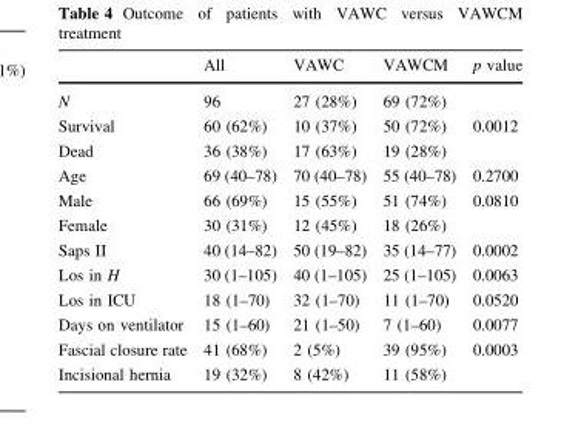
<table><thead><tr><td></td><td>All</td><td>VAWC</td><td>VAWCM</td><td>p value</td></tr></thead><tbody><tr><td>N</td><td>96</td><td>27 (28%)</td><td>69 (72%)</td><td></td></tr><tr><td>Survival</td><td>60 (62%)</td><td>10 (37%)</td><td>50 (72%)</td><td>0.0012</td></tr><tr><td>Dead</td><td>36 (38%)</td><td>17 (63%)</td><td>19 (28%)</td><td></td></tr><tr><td>Age</td><td>69 (40–78)</td><td>70 (40–78)</td><td>55 (40–78)</td><td>0.2700</td></tr><tr><td>Male</td><td>66 (69%)</td><td>15 (55%)</td><td>51 (74%)</td><td>0.0810</td></tr><tr><td>Female</td><td>30 (31%)</td><td>12 (45%)</td><td>18 (26%)</td><td></td></tr><tr><td>Saps II</td><td>40 (14–82)</td><td>50 (19–82)</td><td>35 (14–77)</td><td>0.0002</td></tr><tr><td>Los in H</td><td>30 (1–105)</td><td>40 (1–105)</td><td>25 (1–105)</td><td>0.0063</td></tr><tr><td>Los in ICU</td><td>18 (1–70)</td><td>32 (1–70)</td><td>11 (1–70)</td><td>0.0520</td></tr><tr><td>Days on ventilator</td><td>15 (1–60)</td><td>21 (1–50)</td><td>7 (1–60)</td><td>0.0077</td></tr><tr><td>Fascial closure rate</td><td>41 (68%)</td><td>2 (5%)</td><td>39 (95%)</td><td>0.0003</td></tr><tr><td>Incisional hernia</td><td>19 (32%)</td><td>8 (42%)</td><td>11 (58%)</td><td></td></tr></tbody></table>